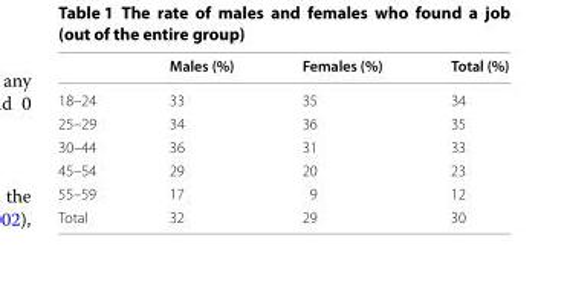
<table><thead><tr><td></td><td>Males (%)</td><td>Females (%)</td><td>Total (%)</td></tr></thead><tbody><tr><td>18–24</td><td>33</td><td>35</td><td>34</td></tr><tr><td>25–29</td><td>34</td><td>36</td><td>35</td></tr><tr><td>30–44</td><td>36</td><td>31</td><td>33</td></tr><tr><td>45–54</td><td>29</td><td>20</td><td>23</td></tr><tr><td>55–59</td><td>17</td><td>9</td><td>12</td></tr><tr><td>Total</td><td>32</td><td>29</td><td>30</td></tr></tbody></table>